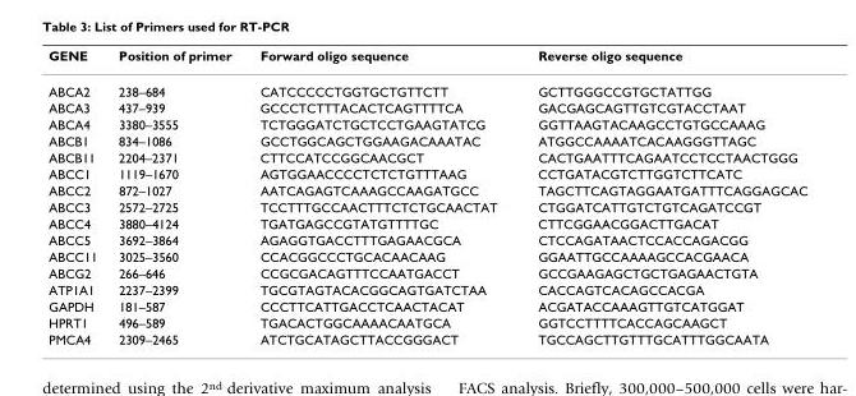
<table><thead><tr><td>GENE</td><td>Position of primer</td><td>Forward oligo sequence</td><td>Reverse oligo sequence</td></tr></thead><tbody><tr><td>ABCA2</td><td>238–684</td><td>CATCCCCCTGGTGCTGTTCTT</td><td>GCTTGGGCCGTGCTATTGG</td></tr><tr><td>ABCA3</td><td>437–939</td><td>GCCCTCTTTACACTCAGTTTTCA</td><td>GACGAGCAGTTGTCGTACCTAAT</td></tr><tr><td>ABCA4</td><td>3380–3555</td><td>TCTGGGATCTGCTCCTGAAGTATCG</td><td>GGTTAAGTACAAGCCTGTGCCAAAG</td></tr><tr><td>ABCB1</td><td>834–1086</td><td>GCCTGGCAGCTGGAAGACAAATAC</td><td>ATGGCCAAAATCACAAGGGTTAGC</td></tr><tr><td>ABCB11</td><td>2204–2371</td><td>CTTCCATCCGGCAACGCT</td><td>CACTGAATTTCAGAATCCTCCTAACTGGG</td></tr><tr><td>ABCC1</td><td>1119–1670</td><td>AGTGGAACCCCTCTCTGTTTAAG</td><td>CCTGATACGTCTTGGTCTTCATC</td></tr><tr><td>ABCC2</td><td>872–1027</td><td>AATCAGAGTCAAAGCCAAGATGCC</td><td>TAGCTTCAGTAGGAATGATTTCAGGAGCAC</td></tr><tr><td>ABCC3</td><td>2572–2725</td><td>TCCTTTGCCAACTTTCTCTGCAACTAT</td><td>CTGGATCATTGTCTGTCAGATCCGT</td></tr><tr><td>ABCC4</td><td>3880–4124</td><td>TGATGAGCCGTATGTTTTGC</td><td>CTTCGGAACGGACTTGACAT</td></tr><tr><td>ABCC5</td><td>3692–3864</td><td>AGAGGTGACCTTTGAGAACGCA</td><td>CTCCAGATAACTCCACCAGACGG</td></tr><tr><td>ABCC11</td><td>3025–3560</td><td>CCACGGCCCTGCACAACAAG</td><td>GGAATTGCCAAAAGCCACGAACA</td></tr><tr><td>ABCG2</td><td>266–646</td><td>CCGCGACAGTTTCCAATGACCT</td><td>GCCGAAGAGCTGCTGAGAACTGTA</td></tr><tr><td>ATP1A1</td><td>2237–2399</td><td>TGCGTAGTACACGGCAGTGATCTAA</td><td>CACCAGTCACAGCCACGA</td></tr><tr><td>GAPDH</td><td>181–587</td><td>CCCTTCATTGACCTCAACTACAT</td><td>ACGATACCAAAGTTGTCATGGAT</td></tr><tr><td>HPRT1</td><td>496–589</td><td>TGACACTGGCAAAACAATGCA</td><td>GGTCCTTTTCACCAGCAAGCT</td></tr><tr><td>PMCA4</td><td>2309–2465</td><td>ATCTGCATAGCTTACCGGGACT</td><td>TGCCAGCTTGTTTGCATTTGGCAATA</td></tr></tbody></table>